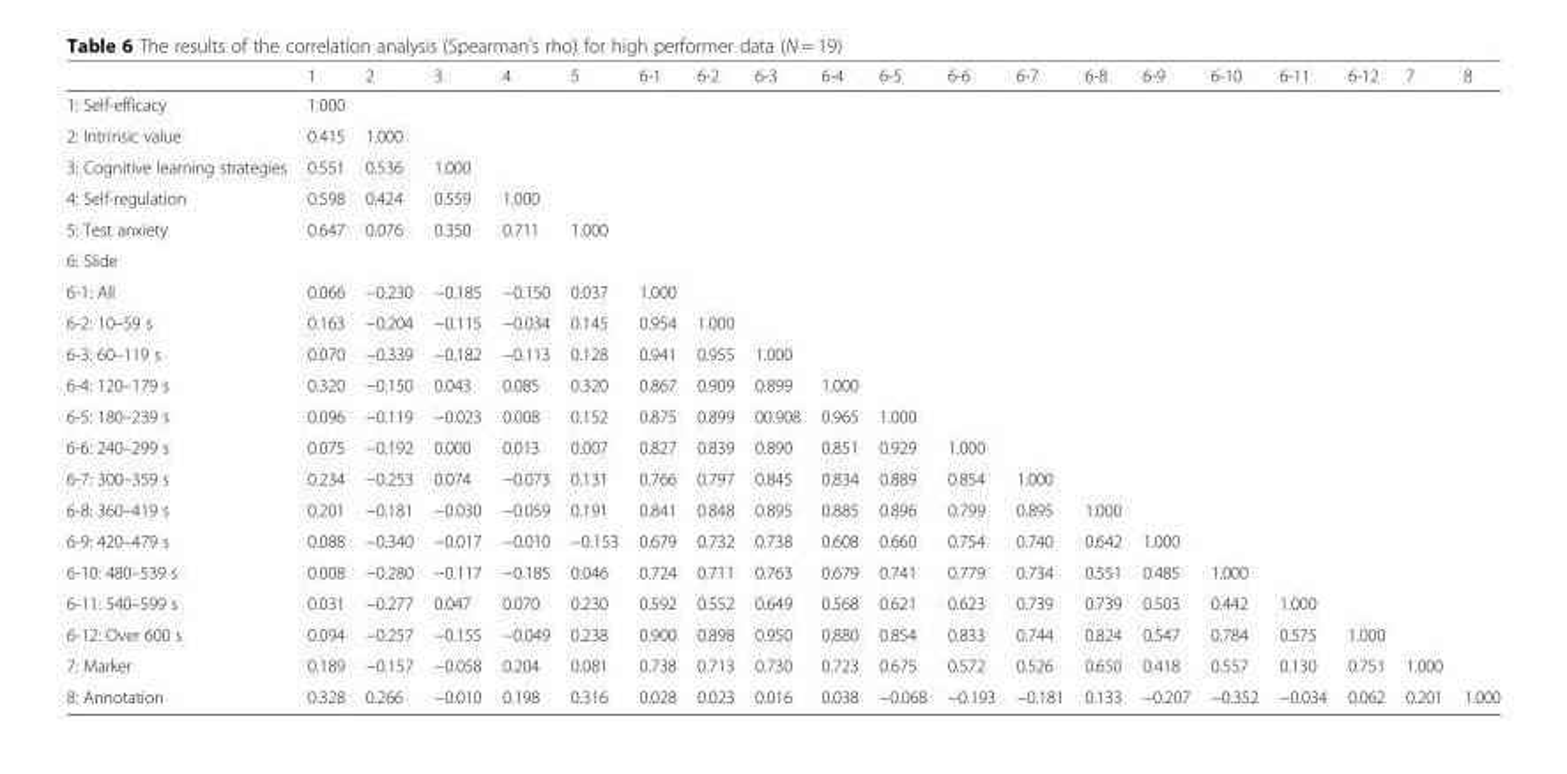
<table><thead><tr><td></td><td>1</td><td>2</td><td>3</td><td>4</td><td>5</td><td>6-1</td><td>6-2</td><td>6-3</td><td>6-4</td><td>6-5</td><td>6-6</td><td>6-7</td><td>6-8</td><td>6-9</td><td>6-10</td><td>6-11</td><td>6-12</td><td>7</td><td>8</td></tr></thead><tbody><tr><td>1: Self-efficacy</td><td>1.000</td><td></td><td></td><td></td><td></td><td></td><td></td><td></td><td></td><td></td><td></td><td></td><td></td><td></td><td></td><td></td><td></td><td></td><td></td></tr><tr><td>2: Intrinsic value</td><td>0.415</td><td>1.000</td><td></td><td></td><td></td><td></td><td></td><td></td><td></td><td></td><td></td><td></td><td></td><td></td><td></td><td></td><td></td><td></td><td></td></tr><tr><td>3: Cognitive learning strategies</td><td>0.551</td><td>0.536</td><td>1.000</td><td></td><td></td><td></td><td></td><td></td><td></td><td></td><td></td><td></td><td></td><td></td><td></td><td></td><td></td><td></td><td></td></tr><tr><td>4: Self-regulation</td><td>0.598</td><td>0.424</td><td>0.559</td><td>1.000</td><td></td><td></td><td></td><td></td><td></td><td></td><td></td><td></td><td></td><td></td><td></td><td></td><td></td><td></td><td></td></tr><tr><td>5: Test anxiety</td><td>0.647</td><td>0.076</td><td>0.350</td><td>0.711</td><td>1.000</td><td></td><td></td><td></td><td></td><td></td><td></td><td></td><td></td><td></td><td></td><td></td><td></td><td></td><td></td></tr><tr><td colspan="20">6: Slide</td></tr><tr><td>6-1: All</td><td>0.066</td><td>−0.230</td><td>−0.185</td><td>−0.150</td><td>0.037</td><td>1.000</td><td></td><td></td><td></td><td></td><td></td><td></td><td></td><td></td><td></td><td></td><td></td><td></td><td></td></tr><tr><td>6-2: 10–59 s</td><td>0.163</td><td>−0.204</td><td>−0.115</td><td>−0.034</td><td>0.145</td><td>0.954</td><td>1.000</td><td></td><td></td><td></td><td></td><td></td><td></td><td></td><td></td><td></td><td></td><td></td><td></td></tr><tr><td>6-3: 60–119 s</td><td>0.070</td><td>−0.339</td><td>−0.182</td><td>−0.113</td><td>0.128</td><td>0.941</td><td>0.955</td><td>1.000</td><td></td><td></td><td></td><td></td><td></td><td></td><td></td><td></td><td></td><td></td><td></td></tr><tr><td>6-4: 120–179 s</td><td>0.320</td><td>−0.150</td><td>0.043</td><td>0.085</td><td>0.320</td><td>0.867</td><td>0.909</td><td>0.899</td><td>1.000</td><td></td><td></td><td></td><td></td><td></td><td></td><td></td><td></td><td></td><td></td></tr><tr><td>6-5: 180–239 s</td><td>0.096</td><td>−0.119</td><td>−0.023</td><td>0.008</td><td>0.152</td><td>0.875</td><td>0.899</td><td>00.908</td><td>0.965</td><td>1.000</td><td></td><td></td><td></td><td></td><td></td><td></td><td></td><td></td><td></td></tr><tr><td>6-6: 240–299 s</td><td>0.075</td><td>−0.192</td><td>0.000</td><td>0.013</td><td>0.007</td><td>0.827</td><td>0.839</td><td>0.890</td><td>0.851</td><td>0.929</td><td>1.000</td><td></td><td></td><td></td><td></td><td></td><td></td><td></td><td></td></tr><tr><td>6-7: 300–359 s</td><td>0.234</td><td>−0.253</td><td>0.074</td><td>−0.073</td><td>0.131</td><td>0.766</td><td>0.797</td><td>0.845</td><td>0.834</td><td>0.889</td><td>0.854</td><td>1.000</td><td></td><td></td><td></td><td></td><td></td><td></td><td></td></tr><tr><td>6-8: 360–419 s</td><td>0.201</td><td>−0.181</td><td>−0.030</td><td>−0.059</td><td>0.191</td><td>0.841</td><td>0.848</td><td>0.895</td><td>0.885</td><td>0.896</td><td>0.799</td><td>0.895</td><td>1.000</td><td></td><td></td><td></td><td></td><td></td><td></td></tr><tr><td>6-9: 420–479 s</td><td>0.088</td><td>−0.340</td><td>−0.017</td><td>−0.010</td><td>−0.153</td><td>0.679</td><td>0.732</td><td>0.738</td><td>0.608</td><td>0.660</td><td>0.754</td><td>0.740</td><td>0.642</td><td>1.000</td><td></td><td></td><td></td><td></td><td></td></tr><tr><td>6-10: 480–539 s</td><td>0.008</td><td>−0.280</td><td>−0.117</td><td>−0.185</td><td>0.046</td><td>0.724</td><td>0.711</td><td>0.763</td><td>0.679</td><td>0.741</td><td>0.779</td><td>0.734</td><td>0.551</td><td>0.485</td><td>1.000</td><td></td><td></td><td></td><td></td></tr><tr><td>6-11: 540–599 s</td><td>0.031</td><td>−0.277</td><td>0.047</td><td>0.070</td><td>0.230</td><td>0.592</td><td>0.552</td><td>0.649</td><td>0.568</td><td>0.621</td><td>0.623</td><td>0.739</td><td>0.739</td><td>0.503</td><td>0.442</td><td>1.000</td><td></td><td></td><td></td></tr><tr><td>6-12: Over 600 s</td><td>0.094</td><td>−0.257</td><td>−0.155</td><td>−0.049</td><td>0.238</td><td>0.900</td><td>0.898</td><td>0.950</td><td>0.880</td><td>0.854</td><td>0.833</td><td>0.744</td><td>0.824</td><td>0.547</td><td>0.784</td><td>0.575</td><td>1.000</td><td></td><td></td></tr><tr><td>7: Marker</td><td>0.189</td><td>−0.157</td><td>−0.058</td><td>0.204</td><td>0.081</td><td>0.738</td><td>0.713</td><td>0.730</td><td>0.723</td><td>0.675</td><td>0.572</td><td>0.526</td><td>0.650</td><td>0.418</td><td>0.557</td><td>0.130</td><td>0.751</td><td>1.000</td><td></td></tr><tr><td>8: Annotation</td><td>0.328</td><td>0.266</td><td>−0.010</td><td>0.198</td><td>0.316</td><td>0.028</td><td>0.023</td><td>0.016</td><td>0.038</td><td>−0.068</td><td>−0.193</td><td>−0.181</td><td>0.133</td><td>−0.207</td><td>−0.352</td><td>−0.034</td><td>0.062</td><td>0.201</td><td>1.000</td></tr></tbody></table>